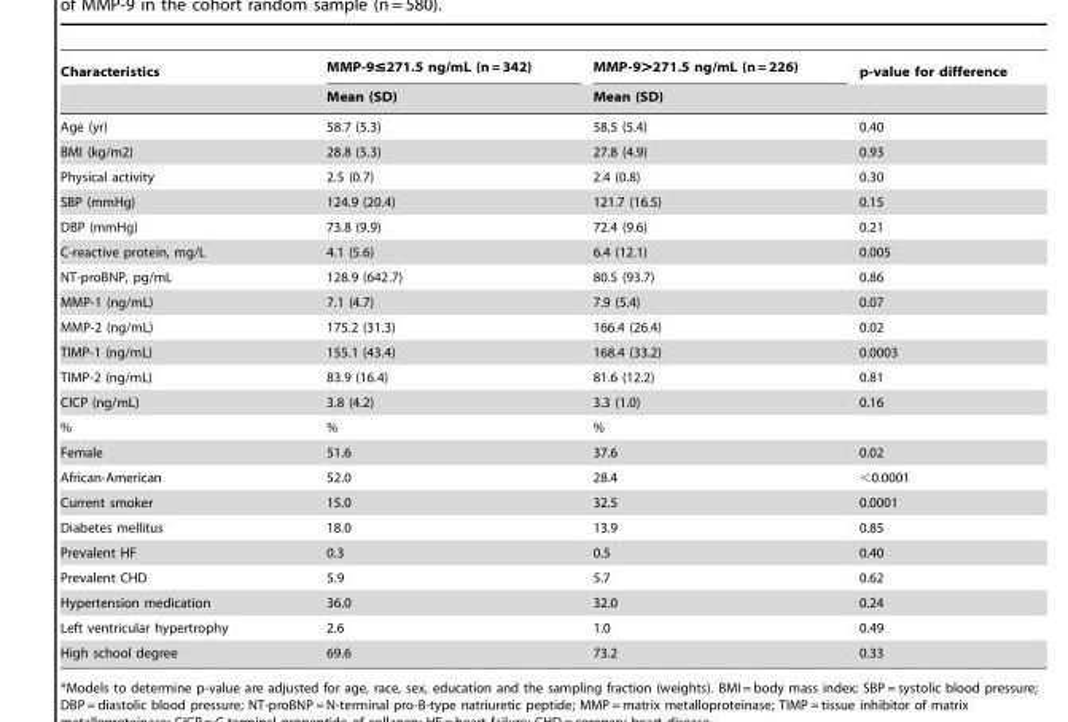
<table><thead><tr><td rowspan="2">Characteristics</td><td rowspan="2">MMP-9≤271.5 ng/mL (n = 342) Mean (SD)</td><td rowspan="2">MMP-9&gt;271.5 ng/mL (n = 226) Mean (SD)</td><td rowspan="2">p-value for difference</td></tr><tr></tr></thead><tbody><tr><td>Age (yr)</td><td>58.7 (5.3)</td><td>58.5 (5.4)</td><td>0.40</td></tr><tr><td>BMI (kg/m2)</td><td>28.8 (5.3)</td><td>27.8 (4.9)</td><td>0.93</td></tr><tr><td>Physical activity</td><td>2.5 (0.7)</td><td>2.4 (0.8)</td><td>0.30</td></tr><tr><td>SBP (mmHg)</td><td>124.9 (20.4)</td><td>121.7 (16.5)</td><td>0.15</td></tr><tr><td>DBP (mmHg)</td><td>73.8 (9.9)</td><td>72.4 (9.6)</td><td>0.21</td></tr><tr><td>C-reactive protein, mg/L</td><td>4.1 (5.6)</td><td>6.4 (12.1)</td><td>0.005</td></tr><tr><td>NT-proBNP, pg/mL</td><td>128.9 (642.7)</td><td>80.5 (93.7)</td><td>0.86</td></tr><tr><td>MMP-1 (ng/mL)</td><td>7.1 (4.7)</td><td>7.9 (5.4)</td><td>0.07</td></tr><tr><td>MMP-2 (ng/mL)</td><td>175.2 (31.3)</td><td>166.4 (26.4)</td><td>0.02</td></tr><tr><td>TIMP-1 (ng/mL)</td><td>155.1 (43.4)</td><td>168.4 (33.2)</td><td>0.0003</td></tr><tr><td>TIMP-2 (ng/mL)</td><td>83.9 (16.4)</td><td>81.6 (12.2)</td><td>0.81</td></tr><tr><td>CICP (ng/mL)</td><td>3.8 (4.2)</td><td>3.3 (1.0)</td><td>0.16</td></tr><tr><td>%</td><td>%</td><td>%</td><td></td></tr><tr><td>Female</td><td>51.6</td><td>37.6</td><td>0.02</td></tr><tr><td>African-American</td><td>52.0</td><td>28.4</td><td>&lt;0.0001</td></tr><tr><td>Current smoker</td><td>15.0</td><td>32.5</td><td>0.0001</td></tr><tr><td>Diabetes mellitus</td><td>18.0</td><td>13.9</td><td>0.85</td></tr><tr><td>Prevalent HF</td><td>0.3</td><td>0.5</td><td>0.40</td></tr><tr><td>Prevalent CHD</td><td>5.9</td><td>5.7</td><td>0.62</td></tr><tr><td>Hypertension medication</td><td>36.0</td><td>32.0</td><td>0.24</td></tr><tr><td>Left ventricular hypertrophy</td><td>2.6</td><td>1.0</td><td>0.49</td></tr><tr><td>High school degree</td><td>69.6</td><td>73.2</td><td>0.33</td></tr></tbody></table>